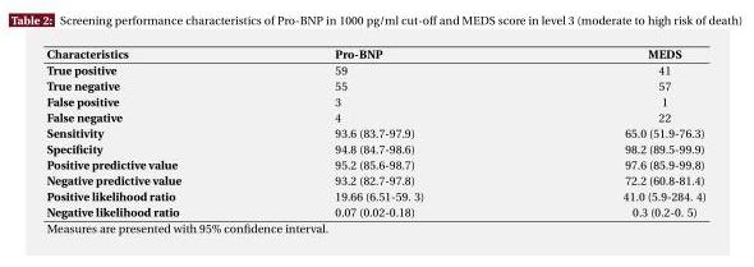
<table><thead><tr><td>Characteristics</td><td>Pro-BNP</td><td>MEDS</td></tr></thead><tbody><tr><td>True positive</td><td>59</td><td>41</td></tr><tr><td>True negative</td><td>55</td><td>57</td></tr><tr><td>False positive</td><td>3</td><td>1</td></tr><tr><td>False negative</td><td>4</td><td>22</td></tr><tr><td>Sensitivity</td><td>93.6 (83.7-97.9)</td><td>65.0 (51.9-76.3)</td></tr><tr><td>Specificity</td><td>94.8 (84.7-98.6)</td><td>98.2 (89.5-99.9)</td></tr><tr><td>Positive predictive value</td><td>95.2 (85.6-98.7)</td><td>97.6 (85.9-99.8)</td></tr><tr><td>Negative predictive value</td><td>93.2 (82.7-97.8)</td><td>72.2 (60.8-81.4)</td></tr><tr><td>Positive likelihood ratio</td><td>19.66 (6.51-59. 3)</td><td>41.0 (5.9-284. 4)</td></tr><tr><td>Negative likelihood ratio</td><td>0.07 (0.02-0.18)</td><td>0.3 (0.2-0. 5)</td></tr></tbody></table>